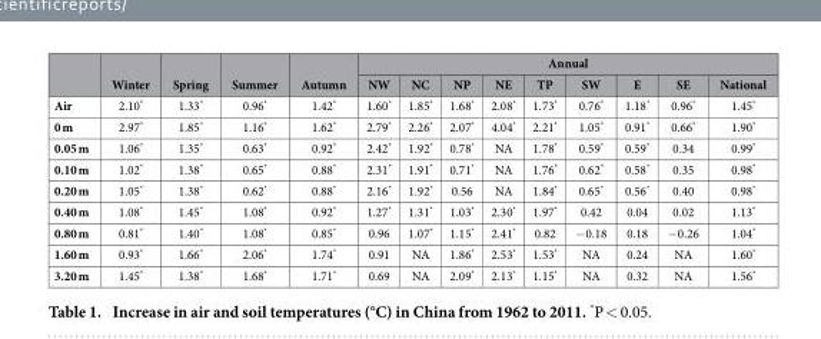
<table><thead><tr><td rowspan="2"></td><td rowspan="2">Winter</td><td rowspan="2">Spring</td><td rowspan="2">Summer</td><td rowspan="2">Autumn</td><td colspan="9">Annual</td></tr><tr><td>NW</td><td>NC</td><td>NP</td><td>NE</td><td>TP</td><td>SW</td><td>E</td><td>SE</td><td>National</td></tr></thead><tbody><tr><td>Air</td><td>2.10*</td><td>1.33*</td><td>0.96*</td><td>1.42*</td><td>1.60*</td><td>1.85*</td><td>1.68*</td><td>2.08*</td><td>1.73*</td><td>0.76*</td><td>1.18*</td><td>0.96*</td><td>1.45*</td></tr><tr><td>0 m</td><td>2.97*</td><td>1.85*</td><td>1.16*</td><td>1.62*</td><td>2.79*</td><td>2.26*</td><td>2.07*</td><td>4.04*</td><td>2.21*</td><td>1.05*</td><td>0.91*</td><td>0.66*</td><td>1.90*</td></tr><tr><td>0.05 m</td><td>1.06*</td><td>1.35*</td><td>0.63*</td><td>0.92*</td><td>2.42*</td><td>1.92*</td><td>0.78*</td><td>NA</td><td>1.78*</td><td>0.59*</td><td>0.59*</td><td>0.34</td><td>0.99*</td></tr><tr><td>0.10 m</td><td>1.02*</td><td>1.38*</td><td>0.65*</td><td>0.88*</td><td>2.31*</td><td>1.91*</td><td>0.71*</td><td>NA</td><td>1.76*</td><td>0.62*</td><td>0.58*</td><td>0.35</td><td>0.98*</td></tr><tr><td>0.20 m</td><td>1.05*</td><td>1.38*</td><td>0.62*</td><td>0.88*</td><td>2.16*</td><td>1.92*</td><td>0.56</td><td>NA</td><td>1.84*</td><td>0.65*</td><td>0.56*</td><td>0.40</td><td>0.98*</td></tr><tr><td>0.40 m</td><td>1.08*</td><td>1.45*</td><td>1.08*</td><td>0.92*</td><td>1.27*</td><td>1.31*</td><td>1.03*</td><td>2.30*</td><td>1.97*</td><td>0.42</td><td>0.04</td><td>0.02</td><td>1.13*</td></tr><tr><td>0.80 m</td><td>0.81*</td><td>1.40*</td><td>1.08*</td><td>0.85*</td><td>0.96</td><td>1.07*</td><td>1.15*</td><td>2.41*</td><td>0.82</td><td>− 0.18</td><td>0.18</td><td>− 0.26</td><td>1.04*</td></tr><tr><td>1.60 m</td><td>0.93*</td><td>1.66*</td><td>2.06*</td><td>1.74*</td><td>0.91</td><td>NA</td><td>1.86*</td><td>2.53*</td><td>1.53*</td><td>NA</td><td>0.24</td><td>NA</td><td>1.60*</td></tr><tr><td>3.20 m</td><td>1.45*</td><td>1.38*</td><td>1.68*</td><td>1.71*</td><td>0.69</td><td>NA</td><td>2.09*</td><td>2.13*</td><td>1.15*</td><td>NA</td><td>0.32</td><td>NA</td><td>1.56*</td></tr></tbody></table>